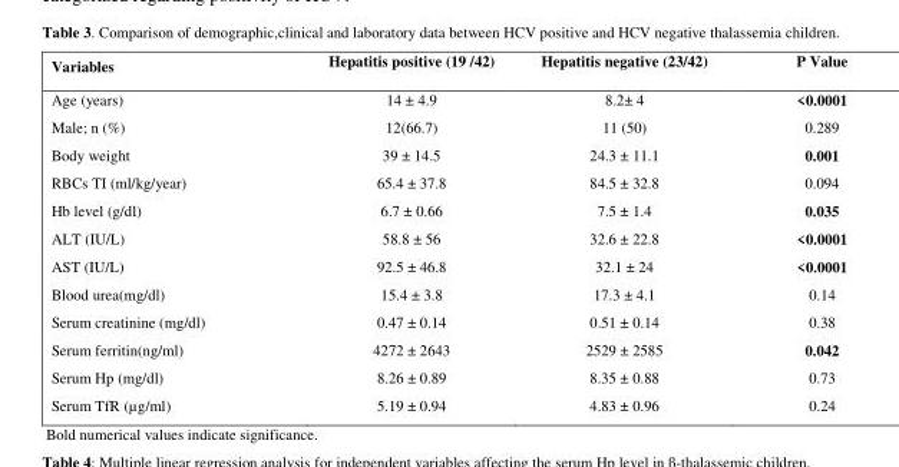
<table><thead><tr><td>Variables</td><td>Hepatitis positive (19 /42)</td><td>Hepatitis negative (23/42)</td><td>P Value</td></tr></thead><tbody><tr><td>Age (years)</td><td>14 ± 4.9</td><td>8.2± 4</td><td>&lt;0.0001</td></tr><tr><td>Male; n (%)</td><td>12(66.7)</td><td>11 (50)</td><td>0.289</td></tr><tr><td>Body weight</td><td>39 ± 14.5</td><td>24.3 ± 11.1</td><td>0.001</td></tr><tr><td>RBCs TI (ml/kg/year)</td><td>65.4 ± 37.8</td><td>84.5 ± 32.8</td><td>0.094</td></tr><tr><td>Hb level (g/dl)</td><td>6.7 ± 0.66</td><td>7.5 ± 1.4</td><td>0.035</td></tr><tr><td>ALT (IU/L)</td><td>58.8 ± 56</td><td>32.6 ± 22.8</td><td>&lt;0.0001</td></tr><tr><td>AST (IU/L)</td><td>92.5 ± 46.8</td><td>32.1 ± 24</td><td>&lt;0.0001</td></tr><tr><td>Blood urea(mg/dl)</td><td>15.4 ± 3.8</td><td>17.3 ± 4.1</td><td>0.14</td></tr><tr><td>Serum creatinine (mg/dl)</td><td>0.47 ± 0.14</td><td>0.51 ± 0.14</td><td>0.38</td></tr><tr><td>Serum ferritin(ng/ml)</td><td>4272 ± 2643</td><td>2529 ± 2585</td><td>0.042</td></tr><tr><td>Serum Hp (mg/dl)</td><td>8.26 ± 0.89</td><td>8.35 ± 0.88</td><td>0.73</td></tr><tr><td>Serum TfR (µg/ml)</td><td>5.19 ± 0.94</td><td>4.83 ± 0.96</td><td>0.24</td></tr></tbody></table>